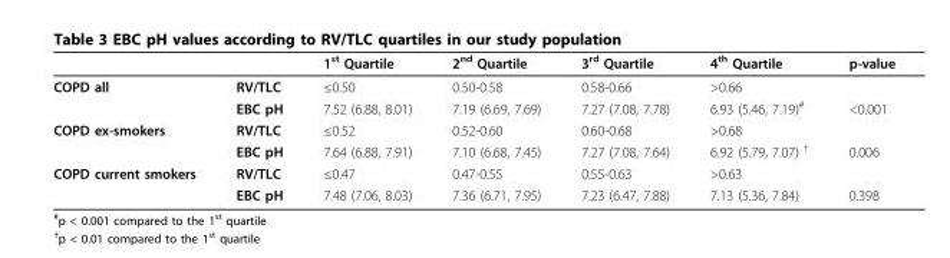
<table><thead><tr><td></td><td></td><td>1<sup>st</sup> Quartile</td><td>2<sup>nd</sup> Quartile</td><td>3<sup>rd</sup> Quartile</td><td>4<sup>th</sup> Quartile</td><td>p-value</td></tr></thead><tbody><tr><td rowspan="2">COPD all</td><td>RV/TLC</td><td>≤0.50</td><td>0.50-0.58</td><td>0.58-0.66</td><td>&gt;0.66</td><td></td></tr><tr><td>EBC pH</td><td>7.52 (6.88, 8.01)</td><td>7.19 (6.69, 7.69)</td><td>7.27 (7.08, 7.78)</td><td>6.93 (5.46, 7.19)<sup>#</sup></td><td>&lt;0.001</td></tr><tr><td rowspan="2">COPD ex-smokers</td><td>RV/TLC</td><td>≤0.52</td><td>0.52-0.60</td><td>0.60-0.68</td><td>&gt;0.68</td><td></td></tr><tr><td>EBC pH</td><td>7.64 (6.88, 7.91)</td><td>7.10 (6.68, 7.45)</td><td>7.27 (7.08, 7.64)</td><td>6.92 (5.79, 7.07) <sup>†</sup></td><td>0.006</td></tr><tr><td rowspan="2">COPD current smokers</td><td>RV/TLC</td><td>≤0.47</td><td>0.47-0.55</td><td>0.55-0.63</td><td>&gt;0.63</td><td></td></tr><tr><td>EBC pH</td><td>7.48 (7.06, 8.03)</td><td>7.36 (6.71, 7.95)</td><td>7.23 (6.47, 7.88)</td><td>7.13 (5.36, 7.84)</td><td>0.398</td></tr></tbody></table>